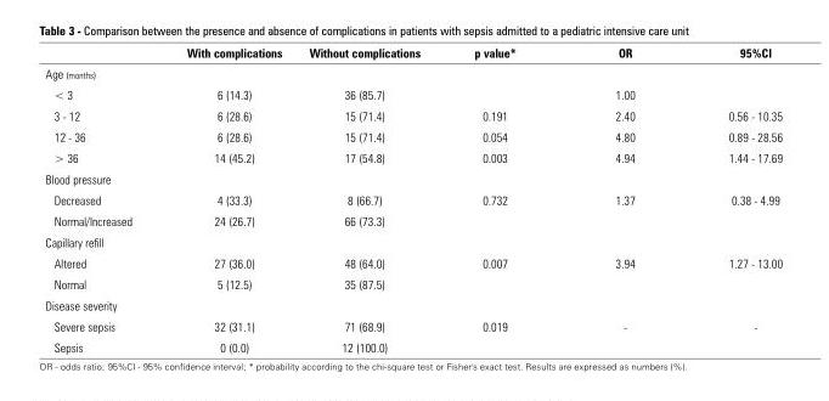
<table><thead><tr><td></td><td>With complications</td><td>Without complications</td><td>p value*</td><td>OR</td><td>95%CI</td></tr></thead><tbody><tr><td colspan="6">Age (months)</td></tr><tr><td>&lt; 3</td><td>6 (14.3)</td><td>36 (85.7)</td><td></td><td>1.00</td><td></td></tr><tr><td>3 - 12</td><td>6 (28.6)</td><td>15 (71.4)</td><td>0.191</td><td>2.40</td><td>0.56 - 10.35</td></tr><tr><td>12 - 36</td><td>6 (28.6)</td><td>15 (71.4)</td><td>0.054</td><td>4.80</td><td>0.89 - 28.56</td></tr><tr><td>&gt; 36</td><td>14 (45.2)</td><td>17 (54.8)</td><td>0.003</td><td>4.94</td><td>1.44 - 17.69</td></tr><tr><td colspan="6">Blood pressure</td></tr><tr><td>Decreased</td><td>4 (33.3)</td><td>8 (66.7)</td><td>0.732</td><td>1.37</td><td>0.38 - 4.99</td></tr><tr><td>Normal/Increased</td><td>24 (26.7)</td><td>66 (73.3)</td><td></td><td></td><td></td></tr><tr><td colspan="6">Capillary refill</td></tr><tr><td>Altered</td><td>27 (36.0)</td><td>48 (64.0)</td><td>0.007</td><td>3.94</td><td>1.27 - 13.00</td></tr><tr><td>Normal</td><td>5 (12.5)</td><td>35 (87.5)</td><td></td><td></td><td></td></tr><tr><td colspan="6">Disease severity</td></tr><tr><td>Severe sepsis</td><td>32 (31.1)</td><td>71 (68.9)</td><td>0.019</td><td>-</td><td>-</td></tr><tr><td>Sepsis</td><td>0 (0.0)</td><td>12 (100.0)</td><td></td><td></td><td></td></tr></tbody></table>